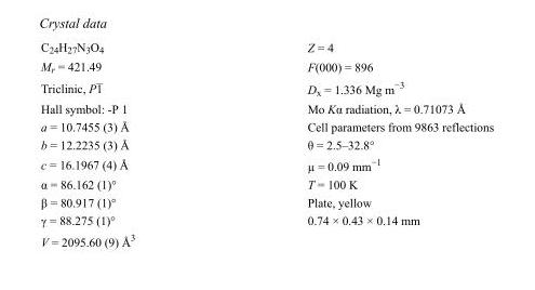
<table><tbody><tr><td>C<sub>24</sub>H<sub>27</sub>N<sub>3</sub>O<sub>4</sub></td><td>Z = 4</td></tr><tr><td>M<sub>r</sub> = 421.49</td><td>F(000) = 896</td></tr><tr><td>Triclinic, P1</td><td>D<sub>x</sub> = 1.336 Mg m<sup>−3</sup></td></tr><tr><td>Hall symbol: -P 1</td><td>Mo Kα radiation, λ = 0.71073 Å</td></tr><tr><td>a = 10.7455 (3) Å</td><td>Cell parameters from 9863 reflections</td></tr><tr><td>b = 12.2235 (3) Å</td><td>θ = 2.5–32.8°</td></tr><tr><td>c = 16.1967 (4) Å</td><td>µ = 0.09 mm<sup>−1</sup></td></tr><tr><td>α = 86.162 (1)°</td><td>T = 100 K</td></tr><tr><td>β = 80.917 (1)°</td><td>Plate, yellow</td></tr><tr><td>γ = 88.275 (1)°</td><td>0.74 × 0.43 × 0.14 mm</td></tr><tr><td>V = 2095.60 (9) Å<sup>3</sup></td><td></td></tr></tbody></table>